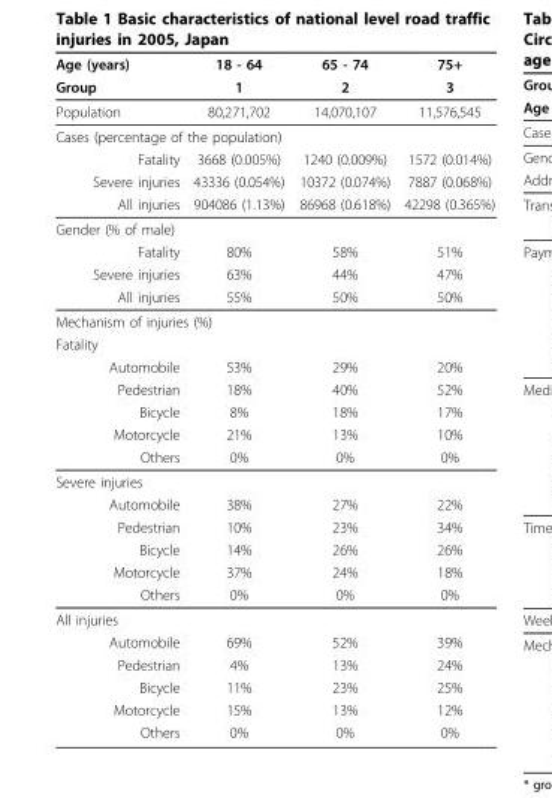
<table><thead><tr><td rowspan="2">Age (years) Group</td><td rowspan="2">18 - 64 1</td><td rowspan="2">65 - 74 2</td><td rowspan="2">75+ 3</td></tr><tr></tr></thead><tbody><tr><td>Population</td><td>80,271,702</td><td>14,070,107</td><td>11,576,545</td></tr><tr><td colspan="4">Cases (percentage of the population)</td></tr><tr><td>Fatality</td><td>3668 (0.005%)</td><td>1240 (0.009%)</td><td>1572 (0.014%)</td></tr><tr><td>Severe injuries</td><td>43336 (0.054%)</td><td>10372 (0.074%)</td><td>7887 (0.068%)</td></tr><tr><td>All injuries</td><td>904086 (1.13%)</td><td>86968 (0.618%)</td><td>42298 (0.365%)</td></tr><tr><td colspan="4">Gender (% of male)</td></tr><tr><td>Fatality</td><td>80%</td><td>58%</td><td>51%</td></tr><tr><td>Severe injuries</td><td>63%</td><td>44%</td><td>47%</td></tr><tr><td>All injuries</td><td>55%</td><td>50%</td><td>50%</td></tr><tr><td colspan="4">Mechanism of injuries (%)</td></tr><tr><td colspan="4">Fatality</td></tr><tr><td>Automobile</td><td>53%</td><td>29%</td><td>20%</td></tr><tr><td>Pedestrian</td><td>18%</td><td>40%</td><td>52%</td></tr><tr><td>Bicycle</td><td>8%</td><td>18%</td><td>17%</td></tr><tr><td>Motorcycle</td><td>21%</td><td>13%</td><td>10%</td></tr><tr><td>Others</td><td>0%</td><td>0%</td><td>0%</td></tr><tr><td colspan="4">Severe injuries</td></tr><tr><td>Automobile</td><td>38%</td><td>27%</td><td>22%</td></tr><tr><td>Pedestrian</td><td>10%</td><td>23%</td><td>34%</td></tr><tr><td>Bicycle</td><td>14%</td><td>26%</td><td>26%</td></tr><tr><td>Motorcycle</td><td>37%</td><td>24%</td><td>18%</td></tr><tr><td>Others</td><td>0%</td><td>0%</td><td>0%</td></tr><tr><td colspan="4">All injuries</td></tr><tr><td>Automobile</td><td>69%</td><td>52%</td><td>39%</td></tr><tr><td>Pedestrian</td><td>4%</td><td>13%</td><td>24%</td></tr><tr><td>Bicycle</td><td>11%</td><td>23%</td><td>25%</td></tr><tr><td>Motorcycle</td><td>15%</td><td>13%</td><td>12%</td></tr><tr><td>Others</td><td>0%</td><td>0%</td><td>0%</td></tr></tbody></table>